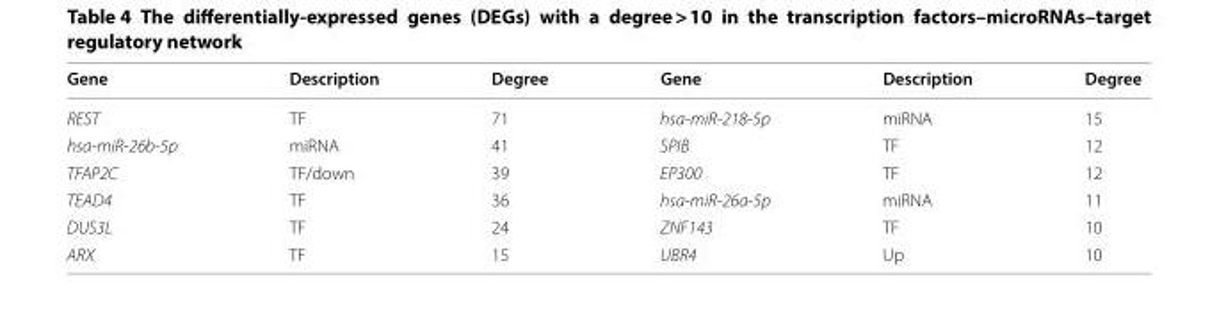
<table><thead><tr><td>Gene</td><td>Description</td><td>Degree</td><td>Gene</td><td>Description</td><td>Degree</td></tr></thead><tbody><tr><td>REST</td><td>TF</td><td>71</td><td>hsa-miR-218-5p</td><td>miRNA</td><td>15</td></tr><tr><td>hsa-miR-26b-5p</td><td>miRNA</td><td>41</td><td>SPIB</td><td>TF</td><td>12</td></tr><tr><td>TFAP2C</td><td>TF/down</td><td>39</td><td>EP300</td><td>TF</td><td>12</td></tr><tr><td>TEAD4</td><td>TF</td><td>36</td><td>hsa-miR-26a-5p</td><td>miRNA</td><td>11</td></tr><tr><td>DUS3L</td><td>TF</td><td>24</td><td>ZNF143</td><td>TF</td><td>10</td></tr><tr><td>ARX</td><td>TF</td><td>15</td><td>UBR4</td><td>Up</td><td>10</td></tr></tbody></table>